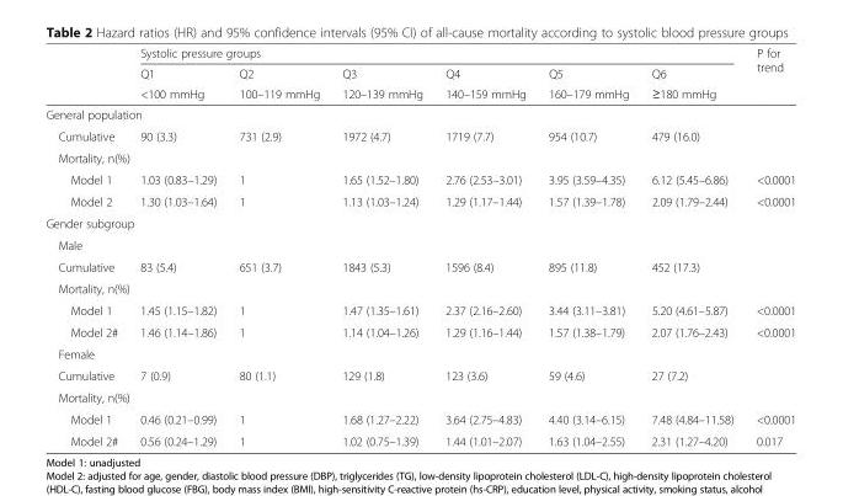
<table><thead><tr><td rowspan="3"></td><td colspan="6">Systolic pressure groups</td><td rowspan="3">P for trend</td></tr><tr><td rowspan="2">Q1 &lt;100 mmHg</td><td rowspan="2">Q2 100–119 mmHg</td><td rowspan="2">Q3 120–139 mmHg</td><td rowspan="2">Q4 140–159 mmHg</td><td rowspan="2">Q5 160–179 mmHg</td><td rowspan="2">Q6 ≥180 mmHg</td></tr><tr></tr></thead><tbody><tr><td colspan="8">General population</td></tr><tr><td>Cumulative</td><td>90 (3.3)</td><td>731 (2.9)</td><td>1972 (4.7)</td><td>1719 (7.7)</td><td>954 (10.7)</td><td>479 (16.0)</td><td></td></tr><tr><td colspan="8">Mortality, n(%)</td></tr><tr><td>Model 1</td><td>1.03 (0.83–1.29)</td><td>1</td><td>1.65 (1.52–1.80)</td><td>2.76 (2.53–3.01)</td><td>3.95 (3.59–4.35)</td><td>6.12 (5.45–6.86)</td><td>&lt;0.0001</td></tr><tr><td>Model 2</td><td>1.30 (1.03–1.64)</td><td>1</td><td>1.13 (1.03–1.24)</td><td>1.29 (1.17–1.44)</td><td>1.57 (1.39–1.78)</td><td>2.09 (1.79–2.44)</td><td>&lt;0.0001</td></tr><tr><td colspan="8">Gender subgroup</td></tr><tr><td colspan="8">Male</td></tr><tr><td>Cumulative</td><td>83 (5.4)</td><td>651 (3.7)</td><td>1843 (5.3)</td><td>1596 (8.4)</td><td>895 (11.8)</td><td>452 (17.3)</td><td></td></tr><tr><td colspan="8">Mortality, n(%)</td></tr><tr><td>Model 1</td><td>1.45 (1.15–1.82)</td><td>1</td><td>1.47 (1.35–1.61)</td><td>2.37 (2.16–2.60)</td><td>3.44 (3.11–3.81)</td><td>5.20 (4.61–5.87)</td><td>&lt;0.0001</td></tr><tr><td>Model 2#</td><td>1.46 (1.14–1.86)</td><td>1</td><td>1.14 (1.04–1.26)</td><td>1.29 (1.16–1.44)</td><td>1.57 (1.38–1.79)</td><td>2.07 (1.76–2.43)</td><td>&lt;0.0001</td></tr><tr><td colspan="8">Female</td></tr><tr><td>Cumulative</td><td>7 (0.9)</td><td>80 (1.1)</td><td>129 (1.8)</td><td>123 (3.6)</td><td>59 (4.6)</td><td>27 (7.2)</td><td></td></tr><tr><td colspan="8">Mortality, n(%)</td></tr><tr><td>Model 1</td><td>0.46 (0.21–0.99)</td><td>1</td><td>1.68 (1.27–2.22)</td><td>3.64 (2.75–4.83)</td><td>4.40 (3.14–6.15)</td><td>7.48 (4.84–11.58)</td><td>&lt;0.0001</td></tr><tr><td>Model 2#</td><td>0.56 (0.24–1.29)</td><td>1</td><td>1.02 (0.75–1.39)</td><td>1.44 (1.01–2.07)</td><td>1.63 (1.04–2.55)</td><td>2.31 (1.27–4.20)</td><td>0.017</td></tr></tbody></table>